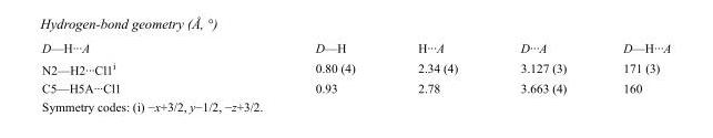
<table><tbody><tr><td>D—H···A</td><td>D—H</td><td>H···A</td><td>D···A</td><td>D—H···A</td></tr><tr><td>N2—H2···Cl1<sup>i</sup></td><td>0.80 (4)</td><td>2.34 (4)</td><td>3.127 (3)</td><td>171 (3)</td></tr><tr><td>C5—H5A···Cl1</td><td>0.93</td><td>2.78</td><td>3.663 (4)</td><td>160</td></tr></tbody></table>